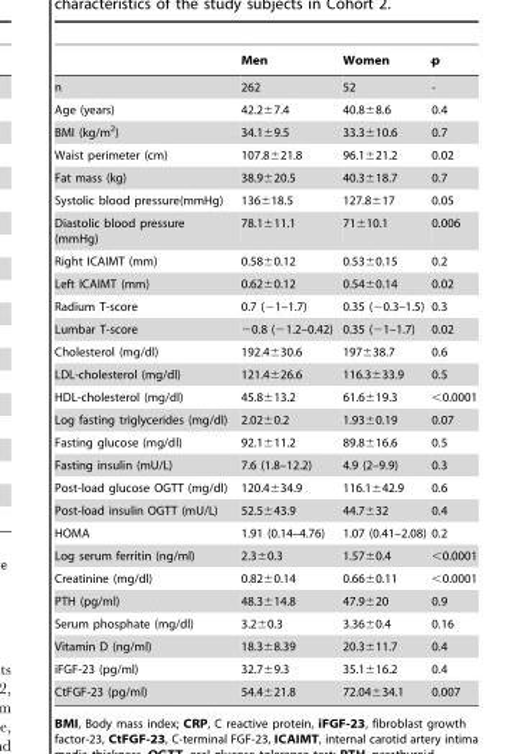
<table><thead><tr><td></td><td>Men</td><td>Women</td><td>`p</td></tr></thead><tbody><tr><td>n</td><td>262</td><td>52</td><td>-</td></tr><tr><td>Age (years)</td><td>42.2±7.4</td><td>40.8±8.6</td><td>0.4</td></tr><tr><td>BMI (kg/m<sup>2</sup>)</td><td>34.1±9.5</td><td>33.3±10.6</td><td>0.7</td></tr><tr><td>Waist perimeter (cm)</td><td>107.8±21.8</td><td>96.1±21.2</td><td>0.02</td></tr><tr><td>Fat mass (kg)</td><td>38.9±20.5</td><td>40.3±18.7</td><td>0.7</td></tr><tr><td>Systolic blood pressure(mmHg)</td><td>136±18.5</td><td>127.8±17</td><td>0.05</td></tr><tr><td>Diastolic blood pressure (mmHg)</td><td>78.1±11.1</td><td>71±10.1</td><td>0.006</td></tr><tr><td>Right ICAIMT (mm)</td><td>0.58±0.12</td><td>0.53±0.15</td><td>0.2</td></tr><tr><td>Left ICAIMT (mm)</td><td>0.62±0.12</td><td>0.54±0.14</td><td>0.02</td></tr><tr><td>Radium T-score</td><td>0.7 (−1–1.7)</td><td>0.35 (−0.3–1.5)</td><td>0.3</td></tr><tr><td>Lumbar T-score</td><td>−0.8 (−1.2–0.42)</td><td>0.35 (−1–1.7)</td><td>0.02</td></tr><tr><td>Cholesterol (mg/dl)</td><td>192.4±30.6</td><td>197±38.7</td><td>0.6</td></tr><tr><td>LDL-cholesterol (mg/dl)</td><td>121.4±26.6</td><td>116.3±33.9</td><td>0.5</td></tr><tr><td>HDL-cholesterol (mg/dl)</td><td>45.8±13.2</td><td>61.6±19.3</td><td>&lt;0.0001</td></tr><tr><td>Log fasting triglycerides (mg/dl)</td><td>2.02±0.2</td><td>1.93±0.19</td><td>0.07</td></tr><tr><td>Fasting glucose (mg/dl)</td><td>92.1±11.2</td><td>89.8±16.6</td><td>0.5</td></tr><tr><td>Fasting insulin (mU/L)</td><td>7.6 (1.8–12.2)</td><td>4.9 (2–9.9)</td><td>0.3</td></tr><tr><td>Post-load glucose OGTT (mg/dl)</td><td>120.4±34.9</td><td>116.1±42.9</td><td>0.6</td></tr><tr><td>Post-load insulin OGTT (mU/L)</td><td>52.5±43.9</td><td>44.7±32</td><td>0.4</td></tr><tr><td>HOMA</td><td>1.91 (0.14–4.76)</td><td>1.07 (0.41–2.08)</td><td>0.2</td></tr><tr><td>Log serum ferritin (ng/ml)</td><td>2.3±0.3</td><td>1.57±0.4</td><td>&lt;0.0001</td></tr><tr><td>Creatinine (mg/dl)</td><td>0.82±0.14</td><td>0.66±0.11</td><td>&lt;0.0001</td></tr><tr><td>PTH (pg/ml)</td><td>48.3±14.8</td><td>47.9±20</td><td>0.9</td></tr><tr><td>Serum phosphate (mg/dl)</td><td>3.2±0.3</td><td>3.36±0.4</td><td>0.16</td></tr><tr><td>Vitamin D (ng/ml)</td><td>18.3±8.39</td><td>20.3±11.7</td><td>0.4</td></tr><tr><td>iFGF-23 (pg/ml)</td><td>32.7±9.3</td><td>35.1±16.2</td><td>0.4</td></tr><tr><td>CtFGF-23 (pg/ml)</td><td>54.4±21.8</td><td>72.04±34.1</td><td>0.007</td></tr></tbody></table>